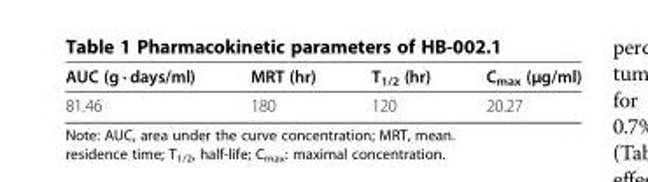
<table><thead><tr><td>AUC (g · days/ml)</td><td>MRT (hr)</td><td>T<sub>1/2</sub> (hr)</td><td>C<sub>max</sub> (μg/ml)</td></tr></thead><tbody><tr><td>81.46</td><td>180</td><td>120</td><td>20.27</td></tr></tbody></table>